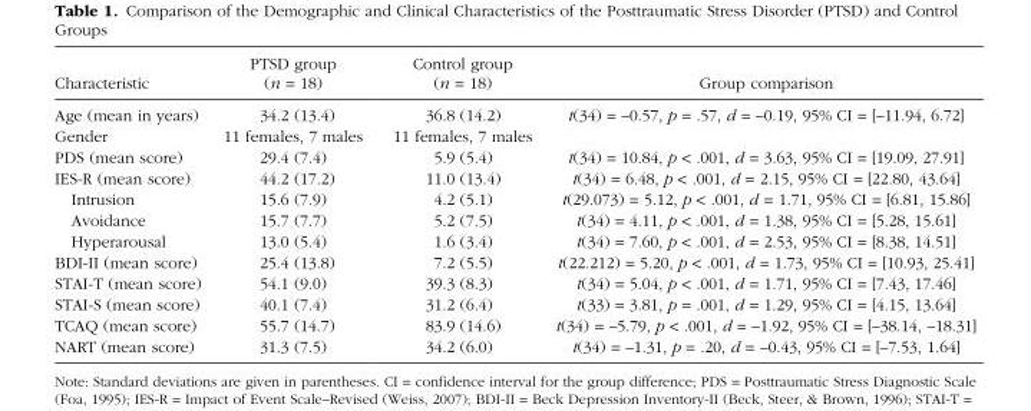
<table><thead><tr><td>Characteristic</td><td>PTSD group (n = 18)</td><td>Control group (n = 18)</td><td>Group comparison</td></tr></thead><tbody><tr><td>Age (mean in years)</td><td>34.2 (13.4)</td><td>36.8 (14.2)</td><td>t(34) = –0.57, p = .57, d = –0.19, 95% CI = [–11.94, 6.72]</td></tr><tr><td>Gender</td><td>11 females, 7 males</td><td>11 females, 7 males</td><td></td></tr><tr><td>PDS (mean score)</td><td>29.4 (7.4)</td><td>5.9 (5.4)</td><td>t(34) = 10.84, p &lt; .001, d = 3.63, 95% CI = [19.09, 27.91]</td></tr><tr><td>IES-R (mean score)</td><td>44.2 (17.2)</td><td>11.0 (13.4)</td><td>t(34) = 6.48, p &lt; .001, d = 2.15, 95% CI = [22.80, 43.64]</td></tr><tr><td>Intrusion</td><td>15.6 (7.9)</td><td>4.2 (5.1)</td><td>t(29.073) = 5.12, p &lt; .001, d = 1.71, 95% CI = [6.81, 15.86]</td></tr><tr><td>Avoidance</td><td>15.7 (7.7)</td><td>5.2 (7.5)</td><td>t(34) = 4.11, p &lt; .001, d = 1.38, 95% CI = [5.28, 15.61]</td></tr><tr><td>Hyperarousal</td><td>13.0 (5.4)</td><td>1.6 (3.4)</td><td>t(34) = 7.60, p &lt; .001, d = 2.53, 95% CI = [8.38, 14.51]</td></tr><tr><td>BDI-II (mean score)</td><td>25.4 (13.8)</td><td>7.2 (5.5)</td><td>t(22.212) = 5.20, p &lt; .001, d = 1.73, 95% CI = [10.93, 25.41]</td></tr><tr><td>STAI-T (mean score)</td><td>54.1 (9.0)</td><td>39.3 (8.3)</td><td>t(34) = 5.04, p &lt; .001, d = 1.71, 95% CI = [7.43, 17.46]</td></tr><tr><td>STAI-S (mean score)</td><td>40.1 (7.4)</td><td>31.2 (6.4)</td><td>t(33) = 3.81, p = .001, d = 1.29, 95% CI = [4.15, 13.64]</td></tr><tr><td>TCAQ (mean score)</td><td>55.7 (14.7)</td><td>83.9 (14.6)</td><td>t(34) = –5.79, p &lt; .001, d = –1.92, 95% CI = [–38.14, –18.31]</td></tr><tr><td>NART (mean score)</td><td>31.3 (7.5)</td><td>34.2 (6.0)</td><td>t(34) = –1.31, p = .20, d = –0.43, 95% CI = [–7.53, 1.64]</td></tr></tbody></table>